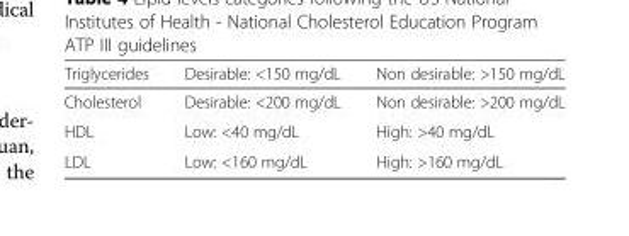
<table><thead><tr><td>Triglycerides</td><td>Desirable: &lt;150 mg/dL</td><td>Non desirable: &gt;150 mg/dL</td></tr></thead><tbody><tr><td>Cholesterol</td><td>Desirable: &lt;200 mg/dL</td><td>Non desirable: &gt;200 mg/dL</td></tr><tr><td>HDL</td><td>Low: &lt;40 mg/dL</td><td>High: &gt;40 mg/dL</td></tr><tr><td>LDL</td><td>Low: &lt;160 mg/dL</td><td>High: &gt;160 mg/dL</td></tr></tbody></table>